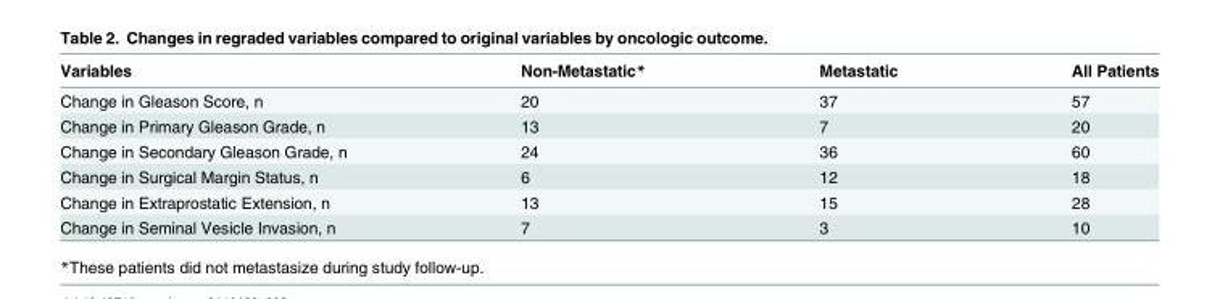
<table><thead><tr><td>Variables</td><td>Non-Metastatic*</td><td>Metastatic</td><td>All Patients</td></tr></thead><tbody><tr><td>Change in Gleason Score, n</td><td>20</td><td>37</td><td>57</td></tr><tr><td>Change in Primary Gleason Grade, n</td><td>13</td><td>7</td><td>20</td></tr><tr><td>Change in Secondary Gleason Grade, n</td><td>24</td><td>36</td><td>60</td></tr><tr><td>Change in Surgical Margin Status, n</td><td>6</td><td>12</td><td>18</td></tr><tr><td>Change in Extraprostatic Extension, n</td><td>13</td><td>15</td><td>28</td></tr><tr><td>Change in Seminal Vesicle Invasion, n</td><td>7</td><td>3</td><td>10</td></tr></tbody></table>